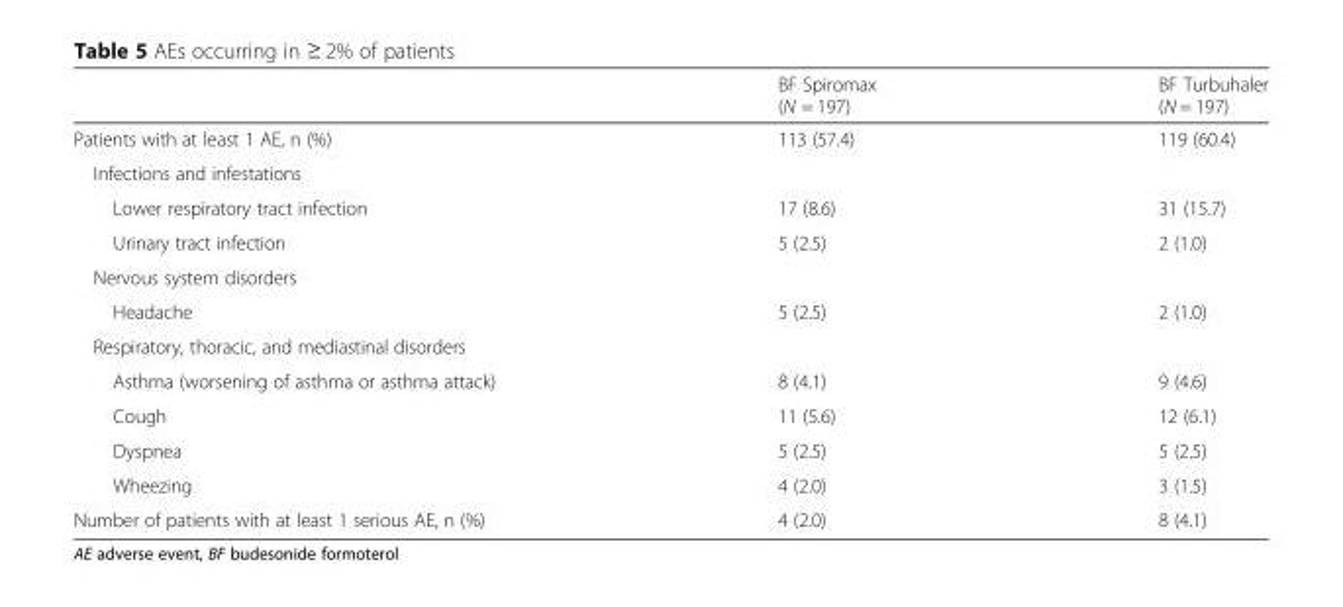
<table><thead><tr><td></td><td>BF Spiromax (N = 197)</td><td>BF Turbuhaler (N = 197)</td></tr></thead><tbody><tr><td>Patients with at least 1 AE, n (%)</td><td>113 (57.4)</td><td>119 (60.4)</td></tr><tr><td colspan="3">Infections and infestations</td></tr><tr><td>Lower respiratory tract infection</td><td>17 (8.6)</td><td>31 (15.7)</td></tr><tr><td>Urinary tract infection</td><td>5 (2.5)</td><td>2 (1.0)</td></tr><tr><td colspan="3">Nervous system disorders</td></tr><tr><td>Headache</td><td>5 (2.5)</td><td>2 (1.0)</td></tr><tr><td colspan="3">Respiratory, thoracic, and mediastinal disorders</td></tr><tr><td>Asthma (worsening of asthma or asthma attack)</td><td>8 (4.1)</td><td>9 (4.6)</td></tr><tr><td>Cough</td><td>11 (5.6)</td><td>12 (6.1)</td></tr><tr><td>Dyspnea</td><td>5 (2.5)</td><td>5 (2.5)</td></tr><tr><td>Wheezing</td><td>4 (2.0)</td><td>3 (1.5)</td></tr><tr><td>Number of patients with at least 1 serious AE, n (%)</td><td>4 (2.0)</td><td>8 (4.1)</td></tr></tbody></table>